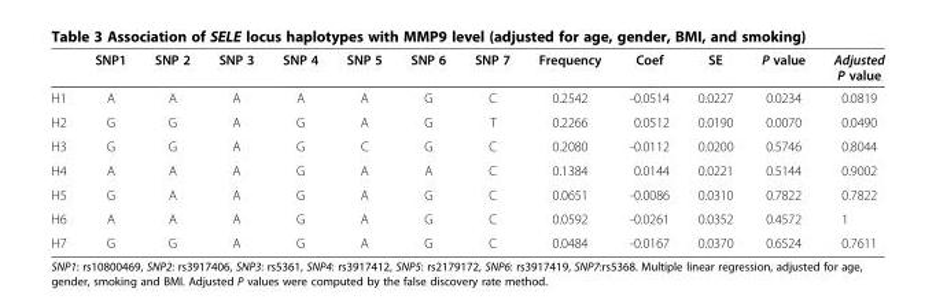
<table><thead><tr><td></td><td>SNP1</td><td>SNP 2</td><td>SNP 3</td><td>SNP 4</td><td>SNP 5</td><td>SNP 6</td><td>SNP 7</td><td>Frequency</td><td>Coef</td><td>SE</td><td>P value</td><td>Adjusted P value</td></tr></thead><tbody><tr><td>H1</td><td>A</td><td>A</td><td>A</td><td>A</td><td>A</td><td>G</td><td>C</td><td>0.2542</td><td>-0.0514</td><td>0.0227</td><td>0.0234</td><td>0.0819</td></tr><tr><td>H2</td><td>G</td><td>G</td><td>A</td><td>G</td><td>A</td><td>G</td><td>T</td><td>0.2266</td><td>0.0512</td><td>0.0190</td><td>0.0070</td><td>0.0490</td></tr><tr><td>H3</td><td>G</td><td>G</td><td>A</td><td>G</td><td>C</td><td>G</td><td>C</td><td>0.2080</td><td>-0.0112</td><td>0.0200</td><td>0.5746</td><td>0.8044</td></tr><tr><td>H4</td><td>A</td><td>A</td><td>A</td><td>G</td><td>A</td><td>A</td><td>C</td><td>0.1384</td><td>0.0144</td><td>0.0221</td><td>0.5144</td><td>0.9002</td></tr><tr><td>H5</td><td>G</td><td>A</td><td>A</td><td>G</td><td>A</td><td>G</td><td>C</td><td>0.0651</td><td>-0.0086</td><td>0.0310</td><td>0.7822</td><td>0.7822</td></tr><tr><td>H6</td><td>A</td><td>A</td><td>A</td><td>G</td><td>A</td><td>G</td><td>C</td><td>0.0592</td><td>-0.0261</td><td>0.0352</td><td>0.4572</td><td>1</td></tr><tr><td>H7</td><td>G</td><td>G</td><td>A</td><td>G</td><td>A</td><td>G</td><td>C</td><td>0.0484</td><td>-0.0167</td><td>0.0370</td><td>0.6524</td><td>0.7611</td></tr></tbody></table>